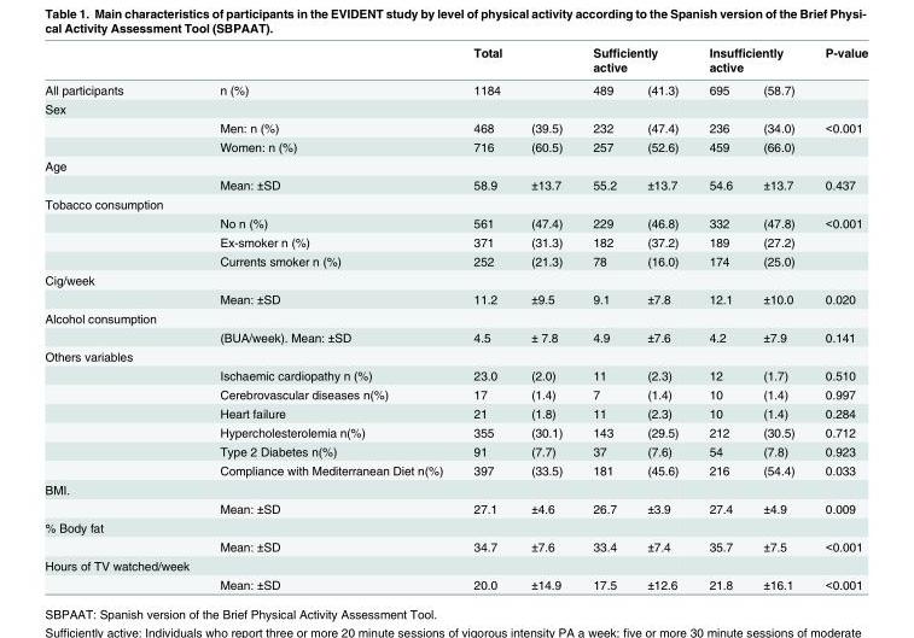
<table><thead><tr><td rowspan="2">All participants</td><td rowspan="2">n (%)</td><td colspan="2">Total</td><td colspan="2">Sufficiently active</td><td colspan="2">Insufficiently active</td><td rowspan="2">P-value</td></tr><tr><td>1184</td><td></td><td>489</td><td>(41.3)</td><td>695</td><td>(58.7)</td></tr></thead><tbody><tr><td colspan="9">Sex</td></tr><tr><td></td><td>Men: n (%)</td><td>468</td><td>(39.5)</td><td>232</td><td>(47.4)</td><td>236</td><td>(34.0)</td><td>&lt;0.001</td></tr><tr><td></td><td>Women: n (%)</td><td>716</td><td>(60.5)</td><td>257</td><td>(52.6)</td><td>459</td><td>(66.0)</td><td></td></tr><tr><td colspan="9">Age</td></tr><tr><td></td><td>Mean: ±SD</td><td>58.9</td><td>±13.7</td><td>55.2</td><td>±13.7</td><td>54.6</td><td>±13.7</td><td>0.437</td></tr><tr><td colspan="9">Tobacco consumption</td></tr><tr><td></td><td>No n (%)</td><td>561</td><td>(47.4)</td><td>229</td><td>(46.8)</td><td>332</td><td>(47.8)</td><td>&lt;0.001</td></tr><tr><td></td><td>Ex-smoker n (%)</td><td>371</td><td>(31.3)</td><td>182</td><td>(37.2)</td><td>189</td><td>(27.2)</td><td></td></tr><tr><td></td><td>Currents smoker n (%)</td><td>252</td><td>(21.3)</td><td>78</td><td>(16.0)</td><td>174</td><td>(25.0)</td><td></td></tr><tr><td colspan="9">Cig/week</td></tr><tr><td></td><td>Mean: ±SD</td><td>11.2</td><td>±9.5</td><td>9.1</td><td>±7.8</td><td>12.1</td><td>±10.0</td><td>0.020</td></tr><tr><td colspan="9">Alcohol consumption</td></tr><tr><td></td><td>(BUA/week). Mean: ±SD</td><td>4.5</td><td>± 7.8</td><td>4.9</td><td>±7.6</td><td>4.2</td><td>±7.9</td><td>0.141</td></tr><tr><td colspan="9">Others variables</td></tr><tr><td></td><td>Ischaemic cardiopathy n (%)</td><td>23.0</td><td>(2.0)</td><td>11</td><td>(2.3)</td><td>12</td><td>(1.7)</td><td>0.510</td></tr><tr><td></td><td>Cerebrovascular diseases n(%)</td><td>17</td><td>(1.4)</td><td>7</td><td>(1.4)</td><td>10</td><td>(1.4)</td><td>0.997</td></tr><tr><td></td><td>Heart failure</td><td>21</td><td>(1.8)</td><td>11</td><td>(2.3)</td><td>10</td><td>(1.4)</td><td>0.284</td></tr><tr><td></td><td>Hypercholesterolemia n(%)</td><td>355</td><td>(30.1)</td><td>143</td><td>(29.5)</td><td>212</td><td>(30.5)</td><td>0.712</td></tr><tr><td></td><td>Type 2 Diabetes n(%)</td><td>91</td><td>(7.7)</td><td>37</td><td>(7.6)</td><td>54</td><td>(7.8)</td><td>0.923</td></tr><tr><td></td><td>Compliance with Mediterranean Diet n(%)</td><td>397</td><td>(33.5)</td><td>181</td><td>(45.6)</td><td>216</td><td>(54.4)</td><td>0.033</td></tr><tr><td colspan="9">BMI.</td></tr><tr><td></td><td>Mean: ±SD</td><td>27.1</td><td>±4.6</td><td>26.7</td><td>±3.9</td><td>27.4</td><td>±4.9</td><td>0.009</td></tr><tr><td colspan="9">% Body fat</td></tr><tr><td></td><td>Mean: ±SD</td><td>34.7</td><td>±7.6</td><td>33.4</td><td>±7.4</td><td>35.7</td><td>±7.5</td><td>&lt;0.001</td></tr><tr><td colspan="9">Hours of TV watched/week</td></tr><tr><td></td><td>Mean: ±SD</td><td>20.0</td><td>±14.9</td><td>17.5</td><td>±12.6</td><td>21.8</td><td>±16.1</td><td>&lt;0.001</td></tr></tbody></table>